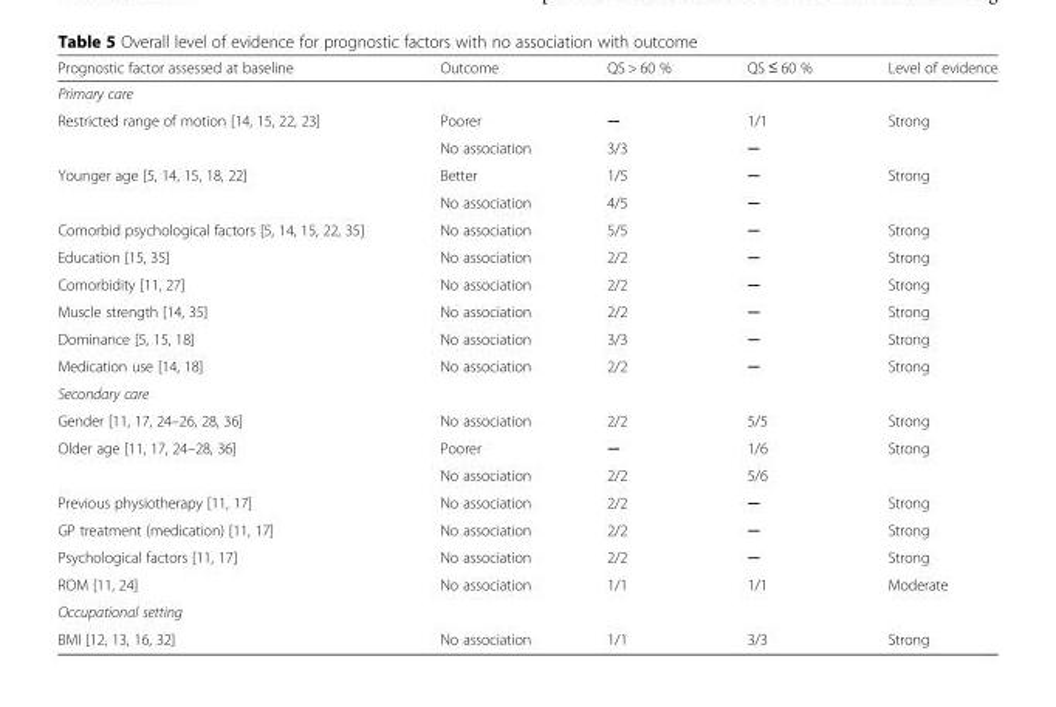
<table><thead><tr><td>Prognostic factor assessed at baseline</td><td>Outcome</td><td>QS &gt; 60 %</td><td>QS ≤ 60 %</td><td>Level of evidence</td></tr></thead><tbody><tr><td colspan="5">Primary care</td></tr><tr><td rowspan="2">Restricted range of motion [14, 15, 22, 23]</td><td>Poorer</td><td>─</td><td>1/1</td><td rowspan="2">Strong</td></tr><tr><td>No association</td><td>3/3</td><td>─</td></tr><tr><td rowspan="2">Younger age [5, 14, 15, 18, 22]</td><td>Better</td><td>1/5</td><td>─</td><td rowspan="2">Strong</td></tr><tr><td>No association</td><td>4/5</td><td>─</td></tr><tr><td>Comorbid psychological factors [5, 14, 15, 22, 35]</td><td>No association</td><td>5/5</td><td>─</td><td>Strong</td></tr><tr><td>Education [15, 35]</td><td>No association</td><td>2/2</td><td>─</td><td>Strong</td></tr><tr><td>Comorbidity [11, 27]</td><td>No association</td><td>2/2</td><td>─</td><td>Strong</td></tr><tr><td>Muscle strength [14, 35]</td><td>No association</td><td>2/2</td><td>─</td><td>Strong</td></tr><tr><td>Dominance [5, 15, 18]</td><td>No association</td><td>3/3</td><td>─</td><td>Strong</td></tr><tr><td>Medication use [14, 18]</td><td>No association</td><td>2/2</td><td>─</td><td>Strong</td></tr><tr><td colspan="5">Secondary care</td></tr><tr><td>Gender [11, 17, 24–26, 28, 36]</td><td>No association</td><td>2/2</td><td>5/5</td><td>Strong</td></tr><tr><td rowspan="2">Older age [11, 17, 24–28, 36]</td><td>Poorer</td><td>─</td><td>1/6</td><td rowspan="2">Strong</td></tr><tr><td>No association</td><td>2/2</td><td>5/6</td></tr><tr><td>Previous physiotherapy [11, 17]</td><td>No association</td><td>2/2</td><td>─</td><td>Strong</td></tr><tr><td>GP treatment (medication) [11, 17]</td><td>No association</td><td>2/2</td><td>─</td><td>Strong</td></tr><tr><td>Psychological factors [11, 17]</td><td>No association</td><td>2/2</td><td>─</td><td>Strong</td></tr><tr><td>ROM [11, 24]</td><td>No association</td><td>1/1</td><td>1/1</td><td>Moderate</td></tr><tr><td colspan="5">Occupational setting</td></tr><tr><td>BMI [12, 13, 16, 32]</td><td>No association</td><td>1/1</td><td>3/3</td><td>Strong</td></tr></tbody></table>